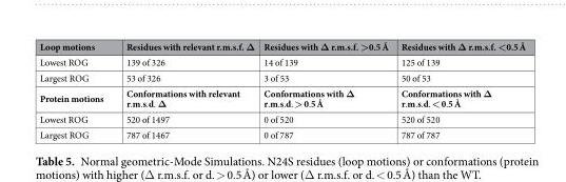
<table><thead><tr><td>Loop motions</td><td>Residues with relevant r.m.s.f. Δ</td><td>Residues with Δ r.m.s.f. &gt;0.5 Å</td><td>Residues with Δ r.m.s.f. &lt;0.5 Å</td></tr></thead><tbody><tr><td>Lowest ROG</td><td>139 of 326</td><td>14 of 139</td><td>125 of 139</td></tr><tr><td>Largest ROG</td><td>53 of 326</td><td>3 of 53</td><td>50 of 53</td></tr><tr><td>Protein motions</td><td>Conformations with relevant r.m.s.d. Δ</td><td>Conformations with Δ r.m.s.d. &gt; 0.5 Å</td><td>Conformations with Δ r.m.s.d. &lt; 0.5 Å</td></tr><tr><td>Lowest ROG</td><td>520 of 1497</td><td>0 of 520</td><td>520 of 520</td></tr><tr><td>Largest ROG</td><td>787 of 1467</td><td>0 of 787</td><td>787 of 787</td></tr></tbody></table>